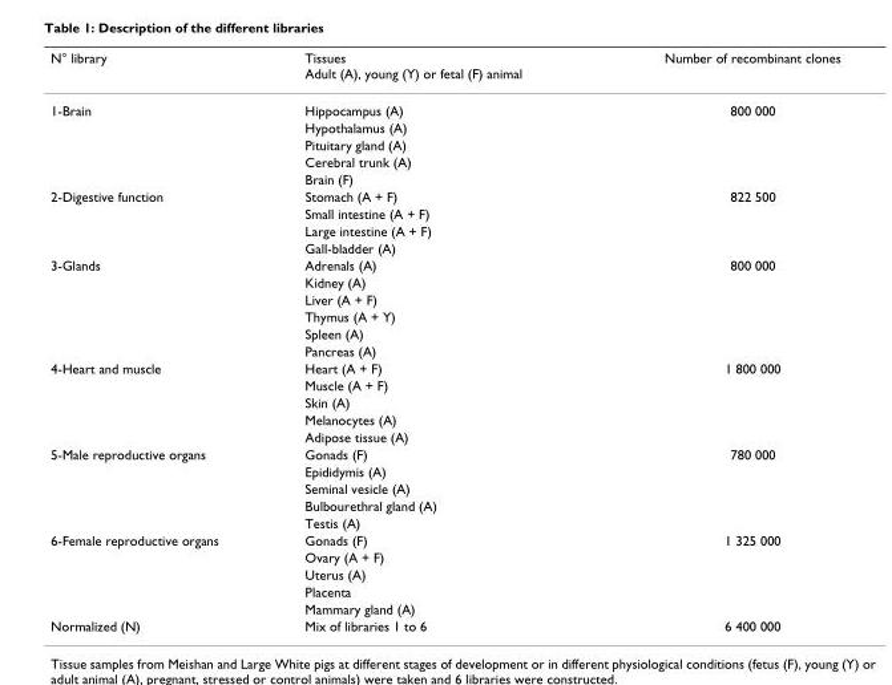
<table><thead><tr><td>N° library</td><td>Tissues Adult (A), young (Y) or fetal (F) animal</td><td>Number of recombinant clones</td></tr></thead><tbody><tr><td rowspan="5">1-Brain</td><td>Hippocampus (A)</td><td>800 000</td></tr><tr><td>Hypothalamus (A)</td><td></td></tr><tr><td>Pituitary gland (A)</td><td></td></tr><tr><td>Cerebral trunk (A)</td><td></td></tr><tr><td>Brain (F)</td><td></td></tr><tr><td rowspan="4">2-Digestive function</td><td>Stomach (A + F)</td><td>822 500</td></tr><tr><td>Small intestine (A + F)</td><td></td></tr><tr><td>Large intestine (A + F)</td><td></td></tr><tr><td>Gall-bladder (A)</td><td></td></tr><tr><td rowspan="6">3-Glands</td><td>Adrenals (A)</td><td>800 000</td></tr><tr><td>Kidney (A)</td><td></td></tr><tr><td>Liver (A + F)</td><td></td></tr><tr><td>Thymus (A + Y)</td><td></td></tr><tr><td>Spleen (A)</td><td></td></tr><tr><td>Pancreas (A)</td><td></td></tr><tr><td rowspan="5">4-Heart and muscle</td><td>Heart (A + F)</td><td>1 800 000</td></tr><tr><td>Muscle (A + F)</td><td></td></tr><tr><td>Skin (A)</td><td></td></tr><tr><td>Melanocytes (A)</td><td></td></tr><tr><td>Adipose tissue (A)</td><td></td></tr><tr><td rowspan="5">5-Male reproductive organs</td><td>Gonads (F)</td><td>780 000</td></tr><tr><td>Epididymis (A)</td><td></td></tr><tr><td>Seminal vesicle (A)</td><td></td></tr><tr><td>Bulbourethral gland (A)</td><td></td></tr><tr><td>Testis (A)</td><td></td></tr><tr><td rowspan="5">6-Female reproductive organs</td><td>Gonads (F)</td><td>1 325 000</td></tr><tr><td>Ovary (A + F)</td><td></td></tr><tr><td>Uterus (A)</td><td></td></tr><tr><td>Placenta</td><td></td></tr><tr><td>Mammary gland (A)</td><td></td></tr><tr><td>Normalized (N)</td><td>Mix of libraries 1 to 6</td><td>6 400 000</td></tr></tbody></table>